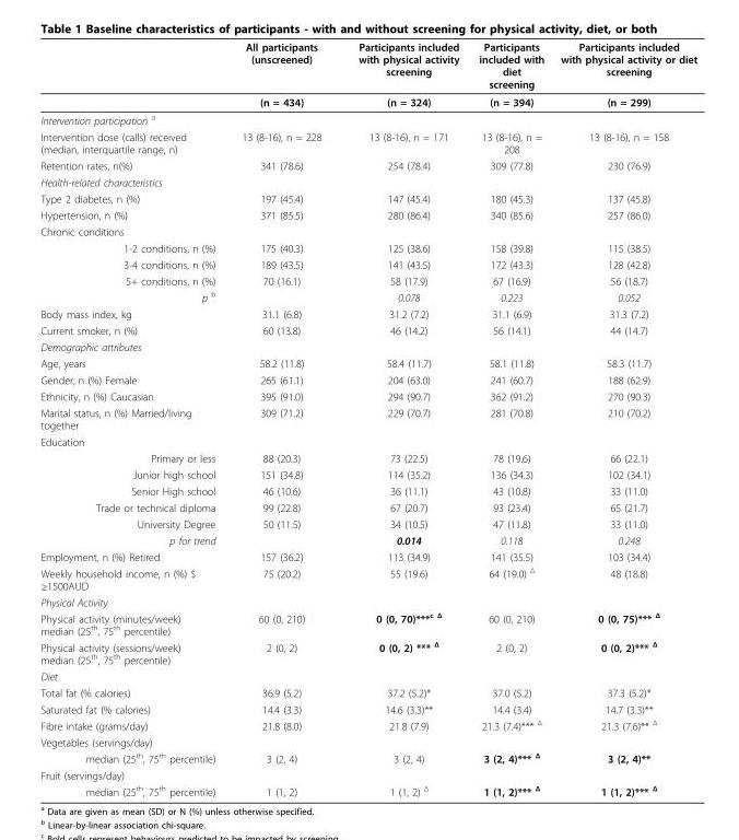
<table><thead><tr><td></td><td>All participants (unscreened)</td><td>Participants included with physical activity screening</td><td>Participants included with diet screening</td><td>Participants included with physical activity or diet screening</td></tr></thead><tbody><tr><td></td><td>(n = 434)</td><td>(n = 324)</td><td>(n = 394)</td><td>(n = 299)</td></tr><tr><td colspan="5">Intervention participation <sup>a</sup></td></tr><tr><td>Intervention dose (calls) received (median, interquartile range, n)</td><td>13 (8-16), n = 228</td><td>13 (8-16), n = 171</td><td>13 (8-16), n = 208</td><td>13 (8-16), n = 158</td></tr><tr><td>Retention rates, n(%)</td><td>341 (78.6)</td><td>254 (78.4)</td><td>309 (77.8)</td><td>230 (76.9)</td></tr><tr><td colspan="5">Health-related characteristics</td></tr><tr><td>Type 2 diabetes, n (%)</td><td>197 (45.4)</td><td>147 (45.4)</td><td>180 (45.3)</td><td>137 (45.8)</td></tr><tr><td>Hypertension, n (%)</td><td>371 (85.5)</td><td>280 (86.4)</td><td>340 (85.6)</td><td>257 (86.0)</td></tr><tr><td colspan="5">Chronic conditions</td></tr><tr><td>1-2 conditions, n (%)</td><td>175 (40.3)</td><td>125 (38.6)</td><td>158 (39.8)</td><td>115 (38.5)</td></tr><tr><td>3-4 conditions, n (%)</td><td>189 (43.5)</td><td>141 (43.5)</td><td>172 (43.3)</td><td>128 (42.8)</td></tr><tr><td>5+ conditions, n (%)</td><td>70 (16.1)</td><td>58 (17.9)</td><td>67 (16.9)</td><td>56 (18.7)</td></tr><tr><td>p <sup>b</sup></td><td></td><td>0.078</td><td>0.223</td><td>0.052</td></tr><tr><td>Body mass index, kg</td><td>31.1 (6.8)</td><td>31.2 (7.2)</td><td>31.1 (6.9)</td><td>31.3 (7.2)</td></tr><tr><td>Current smoker, n (%)</td><td>60 (13.8)</td><td>46 (14.2)</td><td>56 (14.1)</td><td>44 (14.7)</td></tr><tr><td colspan="5">Demographic attributes</td></tr><tr><td>Age, years</td><td>58.2 (11.8)</td><td>58.4 (11.7)</td><td>58.1 (11.8)</td><td>58.3 (11.7)</td></tr><tr><td>Gender, n (%) Female</td><td>265 (61.1)</td><td>204 (63.0)</td><td>241 (60.7)</td><td>188 (62.9)</td></tr><tr><td>Ethnicity, n (%) Caucasian</td><td>395 (91.0)</td><td>294 (90.7)</td><td>362 (91.2)</td><td>270 (90.3)</td></tr><tr><td>Marital status, n (%) Married/living together</td><td>309 (71.2)</td><td>229 (70.7)</td><td>281 (70.8)</td><td>210 (70.2)</td></tr><tr><td colspan="5">Education</td></tr><tr><td>Primary or less</td><td>88 (20.3)</td><td>73 (22.5)</td><td>78 (19.6)</td><td>66 (22.1)</td></tr><tr><td>Junior high school</td><td>151 (34.8)</td><td>114 (35.2)</td><td>136 (34.3)</td><td>102 (34.1)</td></tr><tr><td>Senior High school</td><td>46 (10.6)</td><td>36 (11.1)</td><td>43 (10.8)</td><td>33 (11.0)</td></tr><tr><td>Trade or technical diploma</td><td>99 (22.8)</td><td>67 (20.7)</td><td>93 (23.4)</td><td>65 (21.7)</td></tr><tr><td>University Degree</td><td>50 (11.5)</td><td>34 (10.5)</td><td>47 (11.8)</td><td>33 (11.0)</td></tr><tr><td>p for trend</td><td></td><td>0.014</td><td>0.118</td><td>0.248</td></tr><tr><td>Employment, n (%) Retired</td><td>157 (36.2)</td><td>113 (34.9)</td><td>141 (35.5)</td><td>103 (34.4)</td></tr><tr><td>Weekly household income, n (%) $ ≥1500AUD</td><td>75 (20.2)</td><td>55 (19.6)</td><td>64 (19.0) <sup>Δ</sup></td><td>48 (18.8)</td></tr><tr><td colspan="5">Physical Activity</td></tr><tr><td>Physical activity (minutes/week) median (25<sup>th</sup>, 75<sup>th</sup> percentile)</td><td>60 (0, 210)</td><td>0 (0, 70)***<sup>c Δ</sup></td><td>60 (0, 210)</td><td>0 (0, 75)*** <sup>Δ</sup></td></tr><tr><td>Physical activity (sessions/week) median (25<sup>th</sup>, 75<sup>th</sup> percentile)</td><td>2 (0, 2)</td><td>0 (0, 2) *** <sup>Δ</sup></td><td>2 (0, 2)</td><td>0 (0, 2)*** <sup>Δ</sup></td></tr><tr><td colspan="5">Diet</td></tr><tr><td>Total fat (% calories)</td><td>36.9 (5.2)</td><td>37.2 (5.2)*</td><td>37.0 (5.2)</td><td>37.3 (5.2)*</td></tr><tr><td>Saturated fat (% calories)</td><td>14.4 (3.3)</td><td>14.6 (3.3)**</td><td>14.4 (3.4)</td><td>14.7 (3.3)**</td></tr><tr><td>Fibre intake (grams/day)</td><td>21.8 (8.0)</td><td>21.8 (7.9)</td><td>21.3 (7.4)*** <sup>Δ</sup></td><td>21.3 (7.6)** <sup>Δ</sup></td></tr><tr><td colspan="5">Vegetables (servings/day)</td></tr><tr><td>median (25<sup>th</sup>, 75<sup>th</sup> percentile)</td><td>3 (2, 4)</td><td>3 (2, 4)</td><td>3 (2, 4)*** <sup>Δ</sup></td><td>3 (2, 4)**</td></tr><tr><td colspan="5">Fruit (servings/day)</td></tr><tr><td>median (25<sup>th</sup>, 75<sup>th</sup> percentile)</td><td>1 (1, 2)</td><td>1 (1, 2) <sup>Δ</sup></td><td>1 (1, 2)*** <sup>Δ</sup></td><td>1 (1, 2)*** <sup>Δ</sup></td></tr></tbody></table>